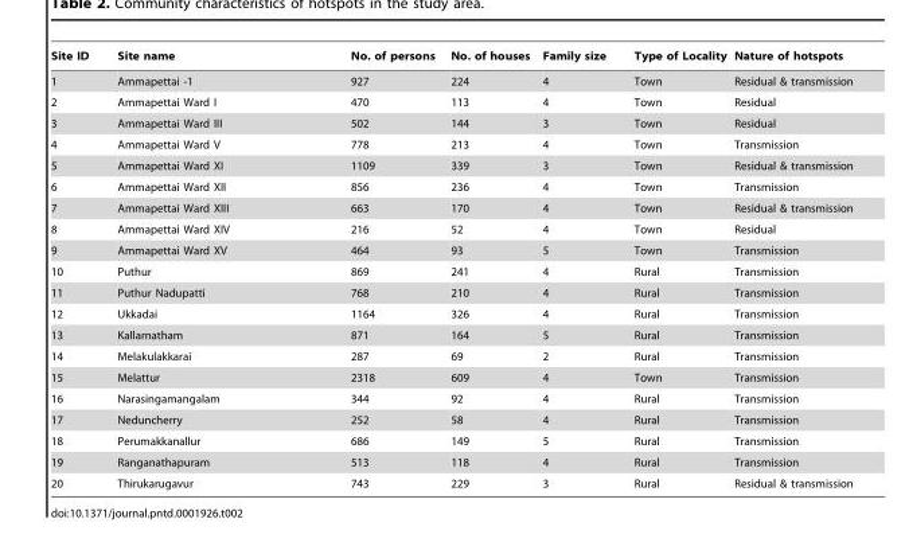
<table><thead><tr><td>Site ID</td><td>Site name</td><td>No. of persons</td><td>No. of houses</td><td>Family size</td><td>Type of Locality</td><td>Nature of hotspots</td></tr></thead><tbody><tr><td>1</td><td>Ammapettai -1</td><td>927</td><td>224</td><td>4</td><td>Town</td><td>Residual &amp; transmission</td></tr><tr><td>2</td><td>Ammapettai Ward I</td><td>470</td><td>113</td><td>4</td><td>Town</td><td>Residual</td></tr><tr><td>3</td><td>Ammapettai Ward III</td><td>502</td><td>144</td><td>3</td><td>Town</td><td>Residual</td></tr><tr><td>4</td><td>Ammapettai Ward V</td><td>778</td><td>213</td><td>4</td><td>Town</td><td>Transmission</td></tr><tr><td>5</td><td>Ammapettai Ward XI</td><td>1109</td><td>339</td><td>3</td><td>Town</td><td>Residual &amp; transmission</td></tr><tr><td>6</td><td>Ammapettai Ward XII</td><td>856</td><td>236</td><td>4</td><td>Town</td><td>Transmission</td></tr><tr><td>7</td><td>Ammapettai Ward XIII</td><td>663</td><td>170</td><td>4</td><td>Town</td><td>Residual &amp; transmission</td></tr><tr><td>8</td><td>Ammapettai Ward XIV</td><td>216</td><td>52</td><td>4</td><td>Town</td><td>Residual</td></tr><tr><td>9</td><td>Ammapettai Ward XV</td><td>464</td><td>93</td><td>5</td><td>Town</td><td>Transmission</td></tr><tr><td>10</td><td>Puthur</td><td>869</td><td>241</td><td>4</td><td>Rural</td><td>Transmission</td></tr><tr><td>11</td><td>Puthur Nadupatti</td><td>768</td><td>210</td><td>4</td><td>Rural</td><td>Transmission</td></tr><tr><td>12</td><td>Ukkadai</td><td>1164</td><td>326</td><td>4</td><td>Rural</td><td>Transmission</td></tr><tr><td>13</td><td>Kallarnatham</td><td>871</td><td>164</td><td>5</td><td>Rural</td><td>Transmission</td></tr><tr><td>14</td><td>Melakulakkarai</td><td>287</td><td>69</td><td>2</td><td>Rural</td><td>Transmission</td></tr><tr><td>15</td><td>Melattur</td><td>2318</td><td>609</td><td>4</td><td>Town</td><td>Transmission</td></tr><tr><td>16</td><td>Narasingamangalam</td><td>344</td><td>92</td><td>4</td><td>Rural</td><td>Transmission</td></tr><tr><td>17</td><td>Neduncherry</td><td>252</td><td>58</td><td>4</td><td>Rural</td><td>Transmission</td></tr><tr><td>18</td><td>Perumakkanallur</td><td>686</td><td>149</td><td>5</td><td>Rural</td><td>Transmission</td></tr><tr><td>19</td><td>Ranganathapuram</td><td>513</td><td>118</td><td>4</td><td>Rural</td><td>Transmission</td></tr><tr><td>20</td><td>Thirukarugavur</td><td>743</td><td>229</td><td>3</td><td>Rural</td><td>Residual &amp; transmission</td></tr></tbody></table>